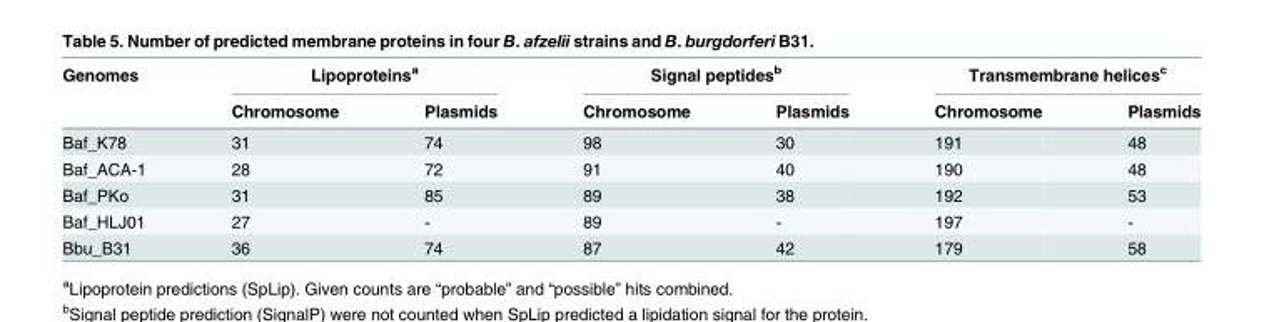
<table><thead><tr><td rowspan="2">Genomes</td><td colspan="2">Lipoproteins<sup>a</sup></td><td colspan="2">Signal peptides<sup>b</sup></td><td colspan="2">Transmembrane helices<sup>c</sup></td></tr><tr><td>Chromosome</td><td>Plasmids</td><td>Chromosome</td><td>Plasmids</td><td>Chromosome</td><td>Plasmids</td></tr></thead><tbody><tr><td>Baf_K78</td><td>31</td><td>74</td><td>98</td><td>30</td><td>191</td><td>48</td></tr><tr><td>Baf_ACA-1</td><td>28</td><td>72</td><td>91</td><td>40</td><td>190</td><td>48</td></tr><tr><td>Baf_PKo</td><td>31</td><td>85</td><td>89</td><td>38</td><td>192</td><td>53</td></tr><tr><td>Baf_HLJ01</td><td>27</td><td>-</td><td>89</td><td>-</td><td>197</td><td>-</td></tr><tr><td>Bbu_B31</td><td>36</td><td>74</td><td>87</td><td>42</td><td>179</td><td>58</td></tr></tbody></table>